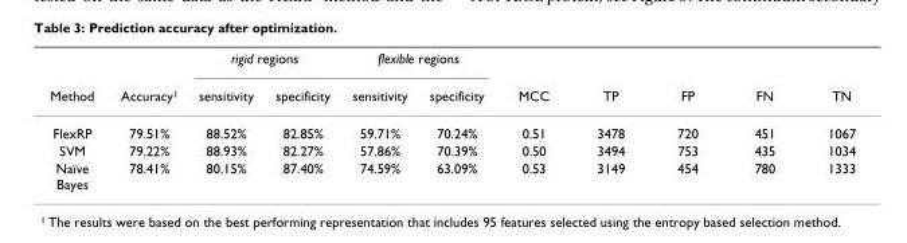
<table><thead><tr><td rowspan="2">Method</td><td rowspan="2">Accuracy1</td><td colspan="2">rigid regions</td><td colspan="2">flexible regions</td><td rowspan="2">MCC</td><td rowspan="2">TP</td><td rowspan="2">FP</td><td rowspan="2">FN</td><td rowspan="2">TN</td></tr><tr><td>sensitivity</td><td>specificity</td><td>sensitivity</td><td>specificity</td></tr></thead><tbody><tr><td>FlexRP</td><td>79.51%</td><td>88.52%</td><td>82.85%</td><td>59.71%</td><td>70.24%</td><td>0.51</td><td>3478</td><td>720</td><td>451</td><td>1067</td></tr><tr><td>SVM</td><td>79.22%</td><td>88.93%</td><td>82.27%</td><td>57.86%</td><td>70.39%</td><td>0.50</td><td>3494</td><td>753</td><td>435</td><td>1034</td></tr><tr><td>Naïve Bayes</td><td>78.41%</td><td>80.15%</td><td>87.40%</td><td>74.59%</td><td>63.09%</td><td>0.53</td><td>3149</td><td>454</td><td>780</td><td>1333</td></tr></tbody></table>